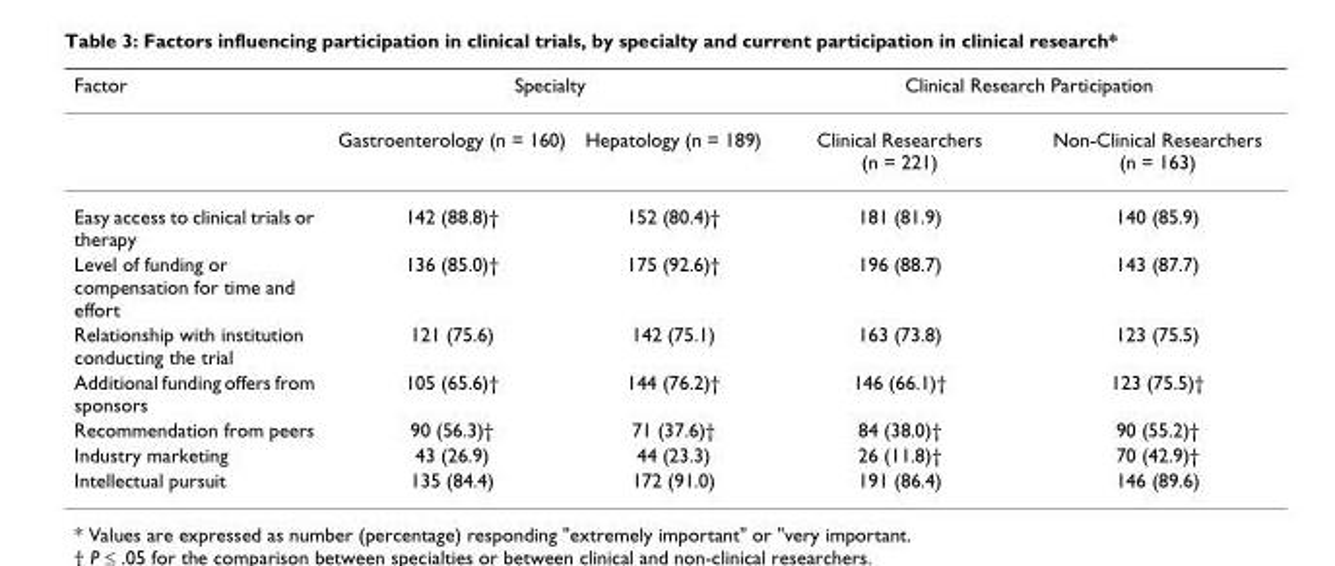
<table><thead><tr><td rowspan="2">Factor</td><td colspan="2">Specialty</td><td colspan="2">Clinical Research Participation</td></tr><tr><td>Gastroenterology (n = 160)</td><td>Hepatology (n = 189)</td><td>Clinical Researchers (n = 221)</td><td>Non-Clinical Researchers (n = 163)</td></tr></thead><tbody><tr><td>Easy access to clinical trials or therapy</td><td>142 (88.8)†</td><td>152 (80.4)†</td><td>181 (81.9)</td><td>140 (85.9)</td></tr><tr><td>Level of funding or compensation for time and effort</td><td>136 (85.0)†</td><td>175 (92.6)†</td><td>196 (88.7)</td><td>143 (87.7)</td></tr><tr><td>Relationship with institution conducting the trial</td><td>121 (75.6)</td><td>142 (75.1)</td><td>163 (73.8)</td><td>123 (75.5)</td></tr><tr><td>Additional funding offers from sponsors</td><td>105 (65.6)†</td><td>144 (76.2)†</td><td>146 (66.1)†</td><td>123 (75.5)†</td></tr><tr><td>Recommendation from peers</td><td>90 (56.3)†</td><td>71 (37.6)†</td><td>84 (38.0)†</td><td>90 (55.2)†</td></tr><tr><td>Industry marketing</td><td>43 (26.9)</td><td>44 (23.3)</td><td>26 (11.8)†</td><td>70 (42.9)†</td></tr><tr><td>Intellectual pursuit</td><td>135 (84.4)</td><td>172 (91.0)</td><td>191 (86.4)</td><td>146 (89.6)</td></tr></tbody></table>